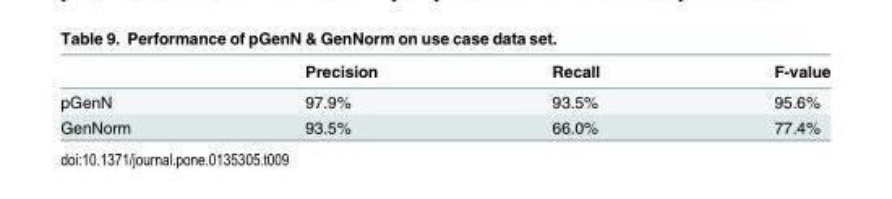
<table><thead><tr><td></td><td>Precision</td><td>Recall</td><td>F-value</td></tr></thead><tbody><tr><td>pGenN</td><td>97.9%</td><td>93.5%</td><td>95.6%</td></tr><tr><td>GenNorm</td><td>93.5%</td><td>66.0%</td><td>77.4%</td></tr></tbody></table>